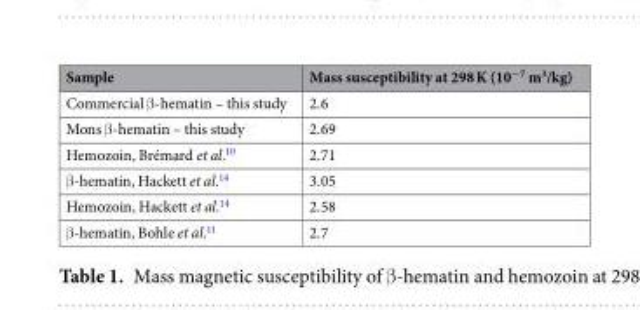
<table><thead><tr><td>Sample</td><td>Mass susceptibility at 298 K (10<sup>−7</sup> m<sup>3</sup>/kg)</td></tr></thead><tbody><tr><td>Commercial β-hematin – this study</td><td>2.6</td></tr><tr><td>Mons β-hematin – this study</td><td>2.69</td></tr><tr><td>Hemozoin, Brémard et al.<sup>10</sup></td><td>2.71</td></tr><tr><td>β-hematin, Hackett et al.<sup>14</sup></td><td>3.05</td></tr><tr><td>Hemozoin, Hackett et al.<sup>14</sup></td><td>2.58</td></tr><tr><td>β-hematin, Bohle et al.<sup>11</sup></td><td>2.7</td></tr></tbody></table>